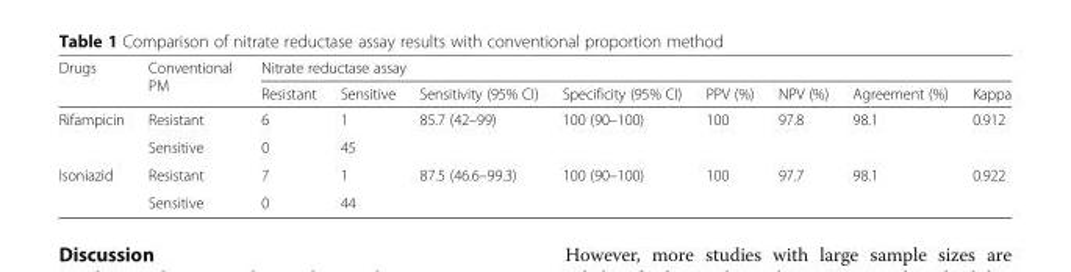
<table><thead><tr><td rowspan="2">Drugs</td><td rowspan="2">Conventional PM</td><td colspan="8">Nitrate reductase assay</td></tr><tr><td>Resistant</td><td>Sensitive</td><td>Sensitivity (95% CI)</td><td>Specificity (95% CI)</td><td>PPV (%)</td><td>NPV (%)</td><td>Agreement (%)</td><td>Kappa</td></tr></thead><tbody><tr><td rowspan="2">Rifampicin</td><td>Resistant</td><td>6</td><td>1</td><td rowspan="2">85.7 (42–99)</td><td rowspan="2">100 (90–100)</td><td rowspan="2">100</td><td rowspan="2">97.8</td><td rowspan="2">98.1</td><td rowspan="2">0.912</td></tr><tr><td>Sensitive</td><td>0</td><td>45</td></tr><tr><td rowspan="2">Isoniazid</td><td>Resistant</td><td>7</td><td>1</td><td rowspan="2">87.5 (46.6–99.3)</td><td rowspan="2">100 (90–100)</td><td rowspan="2">100</td><td rowspan="2">97.7</td><td rowspan="2">98.1</td><td rowspan="2">0.922</td></tr><tr><td>Sensitive</td><td>0</td><td>44</td></tr></tbody></table>